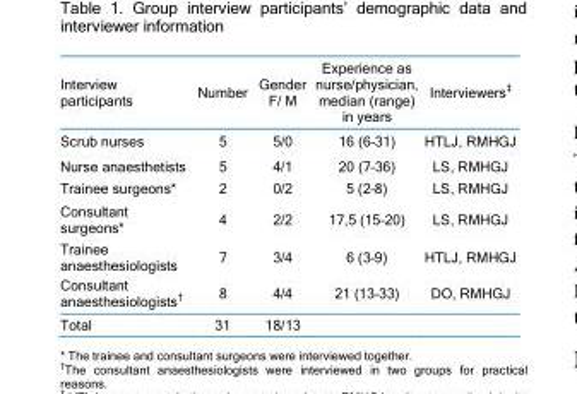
<table><tbody><tr><td>Interview participants</td><td>Number</td><td>Gender F/ M</td><td>Experience as nurse/physician, median (range) in years</td><td>Interviewers<sup>‡</sup></td></tr><tr><td>Scrub nurses</td><td>5</td><td>5/0</td><td>16 (6–31)</td><td>HTLJ, RMHGJ</td></tr><tr><td>Nurse anaesthetists</td><td>5</td><td>4/1</td><td>20 (7–36)</td><td>LS, RMHGJ</td></tr><tr><td>Trainee surgeons*</td><td>2</td><td>0/2</td><td>5 (2–8)</td><td>LS, RMHGJ</td></tr><tr><td>Consultant surgeons*</td><td>4</td><td>2/2</td><td>17,5 (15–20)</td><td>LS, RMHGJ</td></tr><tr><td>Trainee anaesthesiologists</td><td>7</td><td>3/4</td><td>6 (3–9)</td><td>HTLJ, RMHGJ</td></tr><tr><td>Consultant anaesthesiologists<sup>†</sup></td><td>8</td><td>4/4</td><td>21 (13–33)</td><td>DO, RMHGJ</td></tr><tr><td>Total</td><td>31</td><td>18/13</td><td></td><td></td></tr></tbody></table>